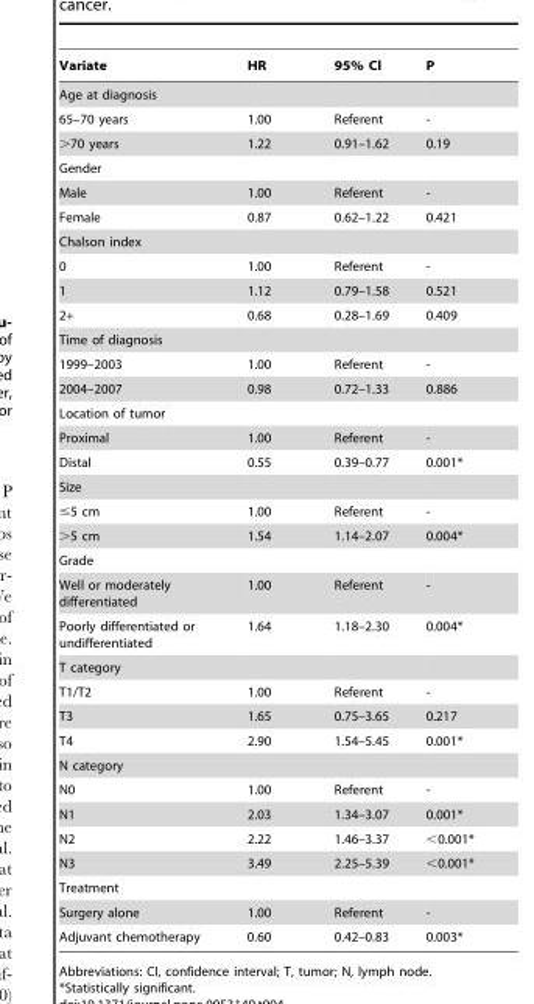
<table><thead><tr><td>Variate</td><td>HR</td><td>95% Cl</td><td>P</td></tr></thead><tbody><tr><td colspan="4">Age at diagnosis</td></tr><tr><td>65–70 years</td><td>1.00</td><td>Referent</td><td>-</td></tr><tr><td>&gt;70 years</td><td>1.22</td><td>0.91–1.62</td><td>0.19</td></tr><tr><td colspan="4">Gender</td></tr><tr><td>Male</td><td>1.00</td><td>Referent</td><td>-</td></tr><tr><td>Female</td><td>0.87</td><td>0.62–1.22</td><td>0.421</td></tr><tr><td colspan="4">Chalson index</td></tr><tr><td>0</td><td>1.00</td><td>Referent</td><td>-</td></tr><tr><td>1</td><td>1.12</td><td>0.79–1.58</td><td>0.521</td></tr><tr><td>2+</td><td>0.68</td><td>0.28–1.69</td><td>0.409</td></tr><tr><td colspan="4">Time of diagnosis</td></tr><tr><td>1999–2003</td><td>1.00</td><td>Referent</td><td>-</td></tr><tr><td>2004–2007</td><td>0.98</td><td>0.72–1.33</td><td>0.886</td></tr><tr><td colspan="4">Location of tumor</td></tr><tr><td>Proximal</td><td>1.00</td><td>Referent</td><td>-</td></tr><tr><td>Distal</td><td>0.55</td><td>0.39–0.77</td><td>0.001*</td></tr><tr><td colspan="4">Size</td></tr><tr><td>≤5 cm</td><td>1.00</td><td>Referent</td><td>-</td></tr><tr><td>&gt;5 cm</td><td>1.54</td><td>1.14–2.07</td><td>0.004*</td></tr><tr><td colspan="4">Grade</td></tr><tr><td>Well or moderately differentiated</td><td>1.00</td><td>Referent</td><td>-</td></tr><tr><td>Poorly differentiated or undifferentiated</td><td>1.64</td><td>1.18–2.30</td><td>0.004*</td></tr><tr><td colspan="4">T category</td></tr><tr><td>T1/T2</td><td>1.00</td><td>Referent</td><td>-</td></tr><tr><td>T3</td><td>1.65</td><td>0.75–3.65</td><td>0.217</td></tr><tr><td>T4</td><td>2.90</td><td>1.54–5.45</td><td>0.001*</td></tr><tr><td colspan="4">N category</td></tr><tr><td>N0</td><td>1.00</td><td>Referent</td><td>-</td></tr><tr><td>N1</td><td>2.03</td><td>1.34–3.07</td><td>0.001*</td></tr><tr><td>N2</td><td>2.22</td><td>1.46–3.37</td><td>&lt;0.001*</td></tr><tr><td>N3</td><td>3.49</td><td>2.25–5.39</td><td>&lt;0.001*</td></tr><tr><td colspan="4">Treatment</td></tr><tr><td>Surgery alone</td><td>1.00</td><td>Referent</td><td>-</td></tr><tr><td>Adjuvant chemotherapy</td><td>0.60</td><td>0.42–0.83</td><td>0.003*</td></tr></tbody></table>